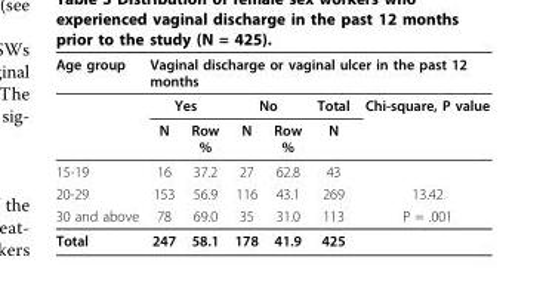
<table><thead><tr><td rowspan="3">Age group</td><td colspan="6">Vaginal discharge or vaginal ulcer in the past 12 months</td></tr><tr><td colspan="2">Yes</td><td colspan="2">No</td><td rowspan="2">Total N</td><td rowspan="2">Chi-square, P value</td></tr><tr><td>N</td><td>Row %</td><td>N</td><td>Row %</td></tr></thead><tbody><tr><td>15-19</td><td>16</td><td>37.2</td><td>27</td><td>62.8</td><td>43</td><td></td></tr><tr><td>20-29</td><td>153</td><td>56.9</td><td>116</td><td>43.1</td><td>269</td><td>13.42</td></tr><tr><td>30 and above</td><td>78</td><td>69.0</td><td>35</td><td>31.0</td><td>113</td><td>P = .001</td></tr><tr><td>Total</td><td>247</td><td>58.1</td><td>178</td><td>41.9</td><td>425</td><td></td></tr></tbody></table>